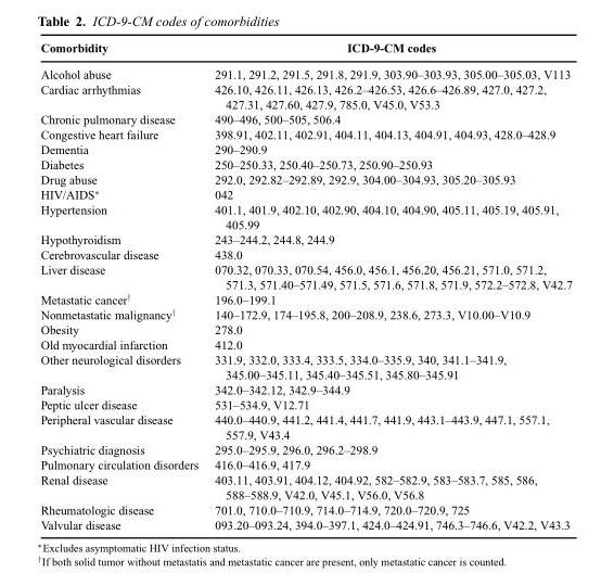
<table><thead><tr><td>Comorbidity</td><td>ICD-9-CM codes</td></tr></thead><tbody><tr><td>Alcohol abuse</td><td>291.1, 291.2, 291.5, 291.8, 291.9, 303.90–303.93, 305.00–305.03, V113</td></tr><tr><td>Cardiac arrhythmias</td><td>426.10, 426.11, 426.13, 426.2–426.53, 426.6–426.89, 427.0, 427.2, 427.31, 427.60, 427.9, 785.0, V45.0, V53.3</td></tr><tr><td>Chronic pulmonary disease</td><td>490–496, 500–505, 506.4</td></tr><tr><td>Congestive heart failure</td><td>398.91, 402.11, 402.91, 404.11, 404.13, 404.91, 404.93, 428.0–428.9</td></tr><tr><td>Dementia</td><td>290–290.9</td></tr><tr><td>Diabetes</td><td>250–250.33, 250.40–250.73, 250.90–250.93</td></tr><tr><td>Drug abuse</td><td>292.0, 292.82–292.89, 292.9, 304.00–304.93, 305.20–305.93</td></tr><tr><td>HIV/AIDS∗</td><td>042</td></tr><tr><td>Hypertension</td><td>401.1, 401.9, 402.10, 402.90, 404.10, 404.90, 405.11, 405.19, 405.91, 405.99</td></tr><tr><td>Hypothyroidism</td><td>243–244.2, 244.8, 244.9</td></tr><tr><td>Cerebrovascular disease</td><td>438.0</td></tr><tr><td>Liver disease</td><td>070.32, 070.33, 070.54, 456.0, 456.1, 456.20, 456.21, 571.0, 571.2, 571.3, 571.40–571.49, 571.5, 571.6, 571.8, 571.9, 572.2–572.8, V42.7</td></tr><tr><td>Metastatic cancer†</td><td>196.0–199.1</td></tr><tr><td>Nonmetastatic malignancy†</td><td>140–172.9, 174–195.8, 200–208.9, 238.6, 273.3, V10.00–V10.9</td></tr><tr><td>Obesity</td><td>278.0</td></tr><tr><td>Old myocardial infarction</td><td>412.0</td></tr><tr><td>Other neurological disorders</td><td>331.9, 332.0, 333.4, 333.5, 334.0–335.9, 340, 341.1–341.9, 345.00–345.11, 345.40–345.51, 345.80–345.91</td></tr><tr><td>Paralysis</td><td>342.0–342.12, 342.9–344.9</td></tr><tr><td>Peptic ulcer disease</td><td>531–534.9, V12.71</td></tr><tr><td>Peripheral vascular disease</td><td>440.0–440.9, 441.2, 441.4, 441.7, 441.9, 443.1–443.9, 447.1, 557.1, 557.9, V43.4</td></tr><tr><td>Psychiatric diagnosis</td><td>295.0–295.9, 296.0, 296.2–298.9</td></tr><tr><td>Pulmonary circulation disorders</td><td>416.0–416.9, 417.9</td></tr><tr><td>Renal disease</td><td>403.11, 403.91, 404.12, 404.92, 582–582.9, 583–583.7, 585, 586, 588–588.9, V42.0, V45.1, V56.0, V56.8</td></tr><tr><td>Rheumatologic disease</td><td>701.0, 710.0–710.9, 714.0–714.9, 720.0–720.9, 725</td></tr><tr><td>Valvular disease</td><td>093.20–093.24, 394.0–397.1, 424.0–424.91, 746.3–746.6, V42.2, V43.3</td></tr></tbody></table>